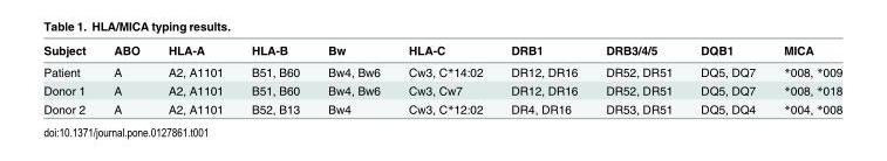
<table><thead><tr><td>Subject</td><td>ABO</td><td>HLA-A</td><td>HLA-B</td><td>Bw</td><td>HLA-C</td><td>DRB1</td><td>DRB3/4/5</td><td>DQB1</td><td>MICA</td></tr></thead><tbody><tr><td>Patient</td><td>A</td><td>A2, A1101</td><td>B51, B60</td><td>Bw4, Bw6</td><td>Cw3, C*14:02</td><td>DR12, DR16</td><td>DR52, DR51</td><td>DQ5, DQ7</td><td>*008, *009</td></tr><tr><td>Donor 1</td><td>A</td><td>A2, A1101</td><td>B51, B60</td><td>Bw4, Bw6</td><td>Cw3, Cw7</td><td>DR12, DR16</td><td>DR52, DR51</td><td>DQ5, DQ7</td><td>*008, *018</td></tr><tr><td>Donor 2</td><td>A</td><td>A2, A1101</td><td>B52, B13</td><td>Bw4</td><td>Cw3, C*12:02</td><td>DR4, DR16</td><td>DR53, DR51</td><td>DQ5, DQ4</td><td>*004, *008</td></tr></tbody></table>